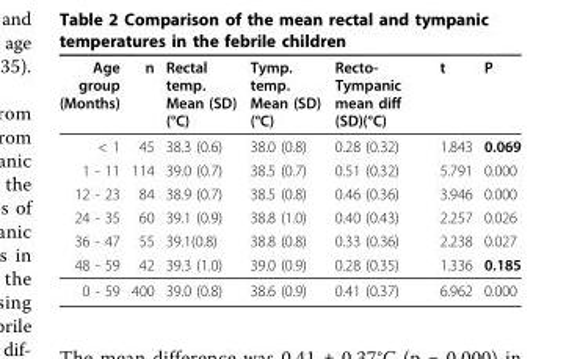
<table><thead><tr><td>Age group (Months)</td><td>n</td><td>Rectal temp. Mean (SD) (°C)</td><td>Tymp. temp. Mean (SD) (°C)</td><td>Recto- Tympanic mean diff (SD)(°C)</td><td>t</td><td>P</td></tr></thead><tbody><tr><td>&lt; 1</td><td>45</td><td>38.3 (0.6)</td><td>38.0 (0.8)</td><td>0.28 (0.32)</td><td>1.843</td><td>0.069</td></tr><tr><td>1 - 11</td><td>114</td><td>39.0 (0.7)</td><td>38.5 (0.7)</td><td>0.51 (0.32)</td><td>5.791</td><td>0.000</td></tr><tr><td>12 - 23</td><td>84</td><td>38.9 (0.7)</td><td>38.5 (0.8)</td><td>0.46 (0.36)</td><td>3.946</td><td>0.000</td></tr><tr><td>24 - 35</td><td>60</td><td>39.1 (0.9)</td><td>38.8 (1.0)</td><td>0.40 (0.43)</td><td>2.257</td><td>0.026</td></tr><tr><td>36 - 47</td><td>55</td><td>39.1(0.8)</td><td>38.8 (0.8)</td><td>0.33 (0.36)</td><td>2.238</td><td>0.027</td></tr><tr><td>48 - 59</td><td>42</td><td>39.3 (1.0)</td><td>39.0 (0.9)</td><td>0.28 (0.35)</td><td>1.336</td><td>0.185</td></tr><tr><td>0 - 59</td><td>400</td><td>39.0 (0.8)</td><td>38.6 (0.9)</td><td>0.41 (0.37)</td><td>6.962</td><td>0.000</td></tr></tbody></table>